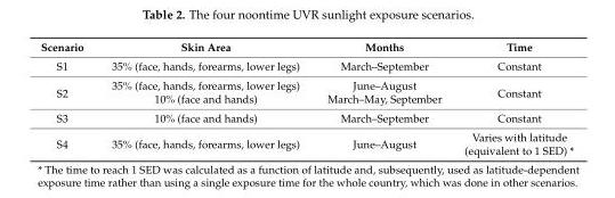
<table><thead><tr><td>Scenario</td><td>Skin Area</td><td>Months</td><td>Time</td></tr></thead><tbody><tr><td>S1</td><td>35% (face, hands, forearms, lower legs)</td><td>March–September</td><td>Constant</td></tr><tr><td rowspan="2">S2</td><td>35% (face, hands, forearms, lower legs)</td><td>June–August</td><td rowspan="2">Constant</td></tr><tr><td>10% (face and hands)</td><td>March–May, September</td></tr><tr><td>S3</td><td>10% (face and hands)</td><td>March–September</td><td>Constant</td></tr><tr><td>S4</td><td>35% (face, hands, forearms, lower legs)</td><td>June–August</td><td>Varies with latitude (equivalent to 1 SED) *</td></tr></tbody></table>